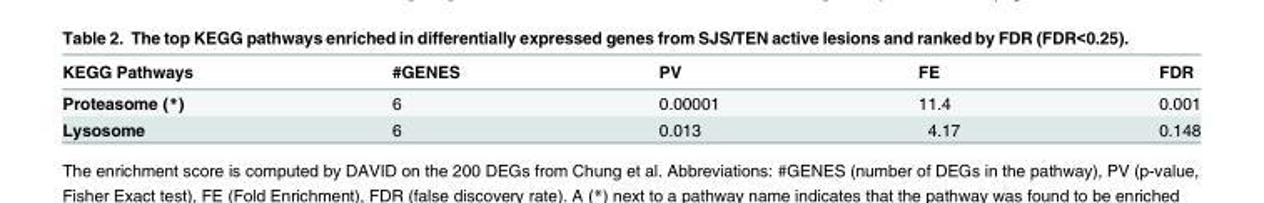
<table><thead><tr><td>KEGG Pathways</td><td>#GENES</td><td>PV</td><td>FE</td><td>FDR</td></tr></thead><tbody><tr><td>Proteasome (*)</td><td>6</td><td>0.00001</td><td>11.4</td><td>0.001</td></tr><tr><td>Lysosome</td><td>6</td><td>0.013</td><td>4.17</td><td>0.148</td></tr></tbody></table>